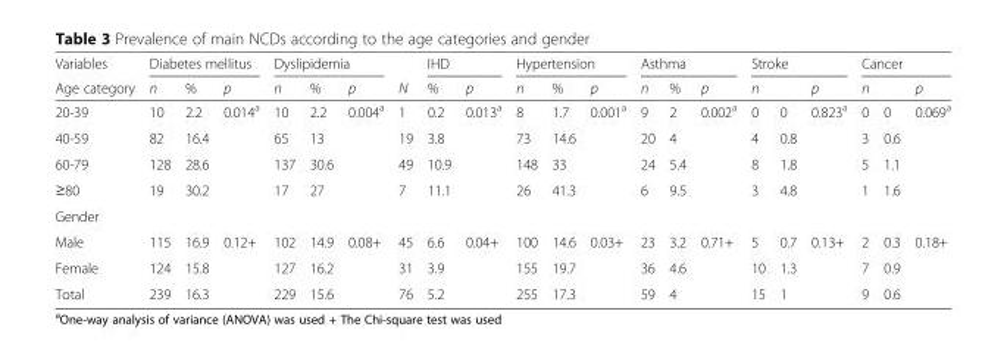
<table><thead><tr><td rowspan="2">Variables Age category</td><td colspan="3">Diabetes mellitus</td><td colspan="3">Dyslipidemia</td><td rowspan="2">N</td><td colspan="2">IHD</td><td colspan="3">Hypertension</td><td colspan="3">Asthma</td><td colspan="3">Stroke</td><td colspan="3">Cancer</td></tr><tr><td>n</td><td>%</td><td>p</td><td>n</td><td>%</td><td>p</td><td>%</td><td>p</td><td>n</td><td>%</td><td>p</td><td>n</td><td>%</td><td>p</td><td>n</td><td></td><td>p</td><td>n</td><td></td><td>p</td></tr></thead><tbody><tr><td>20-39</td><td>10</td><td>2.2</td><td rowspan="4">0.014<sup>a</sup></td><td>10</td><td>2.2</td><td rowspan="4">0.004<sup>a</sup></td><td>1</td><td>0.2</td><td rowspan="4">0.013<sup>a</sup></td><td>8</td><td>1.7</td><td rowspan="4">0.001<sup>a</sup></td><td>9</td><td>2</td><td rowspan="4">0.002<sup>a</sup></td><td>0</td><td>0</td><td rowspan="4">0.823<sup>a</sup></td><td>0</td><td>0</td><td rowspan="4">0.069<sup>a</sup></td></tr><tr><td>40-59</td><td>82</td><td>16.4</td><td>65</td><td>13</td><td>19</td><td>3.8</td><td>73</td><td>14.6</td><td>20</td><td>4</td><td>4</td><td>0.8</td><td>3</td><td>0.6</td></tr><tr><td>60-79</td><td>128</td><td>28.6</td><td>137</td><td>30.6</td><td>49</td><td>10.9</td><td>148</td><td>33</td><td>24</td><td>5.4</td><td>8</td><td>1.8</td><td>5</td><td>1.1</td></tr><tr><td>≥80</td><td>19</td><td>30.2</td><td>17</td><td>27</td><td>7</td><td>11.1</td><td>26</td><td>41.3</td><td>6</td><td>9.5</td><td>3</td><td>4.8</td><td>1</td><td>1.6</td></tr><tr><td colspan="22">Gender</td></tr><tr><td>Male</td><td>115</td><td>16.9</td><td rowspan="3">0.12+</td><td>102</td><td>14.9</td><td rowspan="3">0.08+</td><td>45</td><td>6.6</td><td rowspan="3">0.04+</td><td>100</td><td>14.6</td><td rowspan="3">0.03+</td><td>23</td><td>3.2</td><td rowspan="3">0.71+</td><td>5</td><td>0.7</td><td rowspan="3">0.13+</td><td>2</td><td>0.3</td><td rowspan="3">0.18+</td></tr><tr><td>Female</td><td>124</td><td>15.8</td><td>127</td><td>16.2</td><td>31</td><td>3.9</td><td>155</td><td>19.7</td><td>36</td><td>4.6</td><td>10</td><td>1.3</td><td>7</td><td>0.9</td></tr><tr><td>Total</td><td>239</td><td>16.3</td><td>229</td><td>15.6</td><td>76</td><td>5.2</td><td>255</td><td>17.3</td><td>59</td><td>4</td><td>15</td><td>1</td><td>9</td><td>0.6</td></tr></tbody></table>